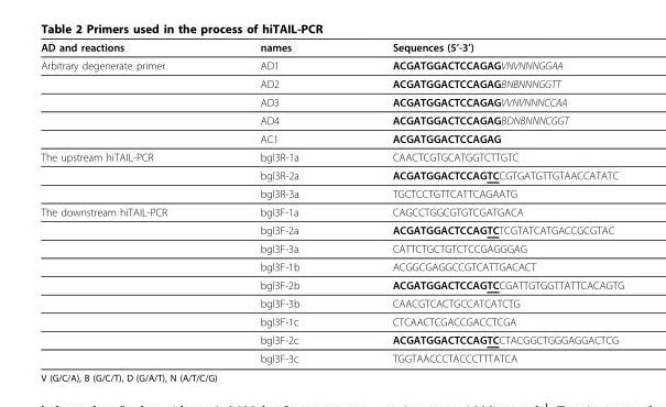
<table><thead><tr><td>AD and reactions</td><td>names</td><td>Sequences (5’-3’)</td></tr></thead><tbody><tr><td rowspan="5">Arbitrary degenerate primer</td><td>AD1</td><td>ACGATGGACTCCAGAGVNVNNNGGAA</td></tr><tr><td>AD2</td><td>ACGATGGACTCCAGAGBNBNNNGGTT</td></tr><tr><td>AD3</td><td>ACGATGGACTCCAGAGVVNVNNNCCAA</td></tr><tr><td>AD4</td><td>ACGATGGACTCCAGAGBDNBNNNCGGT</td></tr><tr><td>AC1</td><td>ACGATGGACTCCAGAG</td></tr><tr><td rowspan="3">The upstream hiTAIL-PCR</td><td>bgl3R-1a</td><td>CAACTCGTGCATGGTCTTGTC</td></tr><tr><td>bgl3R-2a</td><td>ACGATGGACTCCAGTCCGTGATGTTGTAACCATATC</td></tr><tr><td>bgl3R-3a</td><td>TGCTCCTGTTCATTCAGAATG</td></tr><tr><td rowspan="9">The downstream hiTAIL-PCR</td><td>bgl3F-1a</td><td>CAGCCTGGCGTGTCGATGACA</td></tr><tr><td>bgl3F-2a</td><td>ACGATGGACTCCAGTCTCGTATCATGACCGCGTAC</td></tr><tr><td>bgl3F-3a</td><td>CATTCTGCTGTCTCCGAGGGAG</td></tr><tr><td>bgl3F-1b</td><td>ACGGCGAGGCCGTCATTGACACT</td></tr><tr><td>bgl3F-2b</td><td>ACGATGGACTCCAGTCCGATTGTGGTTATTCACAGTG</td></tr><tr><td>bgl3F-3b</td><td>CAACGTCACTGCCATCATCTG</td></tr><tr><td>bgl3F-1c</td><td>CTCAACTCGACCGACCTCGA</td></tr><tr><td>bgl3F-2c</td><td>ACGATGGACTCCAGTCCTACGGCTGGGAGGACTCG</td></tr><tr><td>bgl3F-3c</td><td>TGGTAACCCTACCCTTTATCA</td></tr></tbody></table>